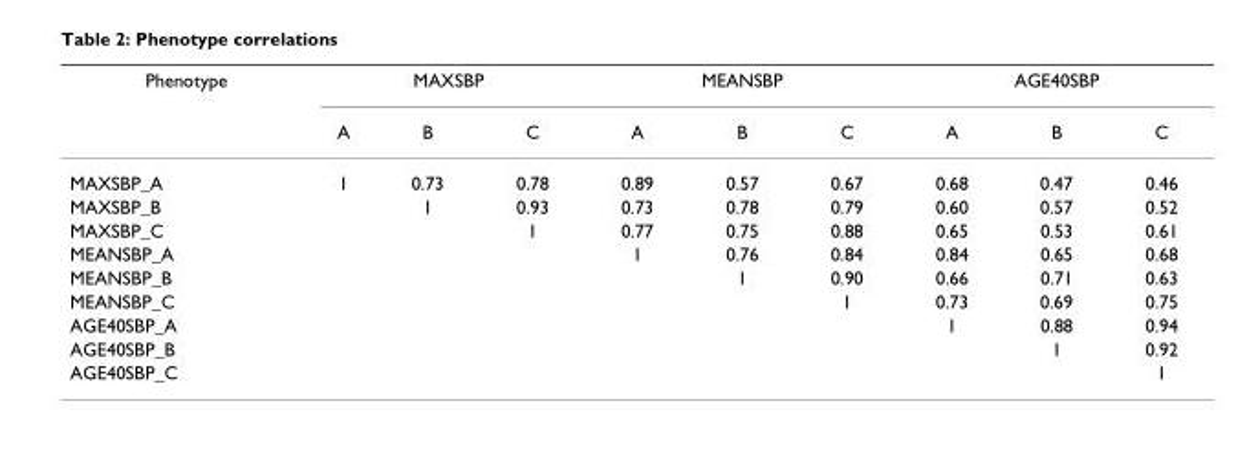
<table><thead><tr><td rowspan="2">Phenotype</td><td colspan="3">MAXSBP</td><td colspan="3">MEANSBP</td><td colspan="3">AGE40SBP</td></tr><tr><td>A</td><td>B</td><td>C</td><td>A</td><td>B</td><td>C</td><td>A</td><td>B</td><td>C</td></tr></thead><tbody><tr><td>MAXSBP_A</td><td>1</td><td>0.73</td><td>0.78</td><td>0.89</td><td>0.57</td><td>0.67</td><td>0.68</td><td>0.47</td><td>0.46</td></tr><tr><td>MAXSBP_B</td><td></td><td>1</td><td>0.93</td><td>0.73</td><td>0.78</td><td>0.79</td><td>0.60</td><td>0.57</td><td>0.52</td></tr><tr><td>MAXSBP_C</td><td></td><td></td><td>1</td><td>0.77</td><td>0.75</td><td>0.88</td><td>0.65</td><td>0.53</td><td>0.61</td></tr><tr><td>MEANSBP_A</td><td></td><td></td><td></td><td>1</td><td>0.76</td><td>0.84</td><td>0.84</td><td>0.65</td><td>0.68</td></tr><tr><td>MEANSBP_B</td><td></td><td></td><td></td><td></td><td>1</td><td>0.90</td><td>0.66</td><td>0.71</td><td>0.63</td></tr><tr><td>MEANSBP_C</td><td></td><td></td><td></td><td></td><td></td><td>1</td><td>0.73</td><td>0.69</td><td>0.75</td></tr><tr><td>AGE40SBP_A</td><td></td><td></td><td></td><td></td><td></td><td></td><td>1</td><td>0.88</td><td>0.94</td></tr><tr><td>AGE40SBP_B</td><td></td><td></td><td></td><td></td><td></td><td></td><td></td><td>1</td><td>0.92</td></tr><tr><td>AGE40SBP_C</td><td></td><td></td><td></td><td></td><td></td><td></td><td></td><td></td><td>1</td></tr></tbody></table>